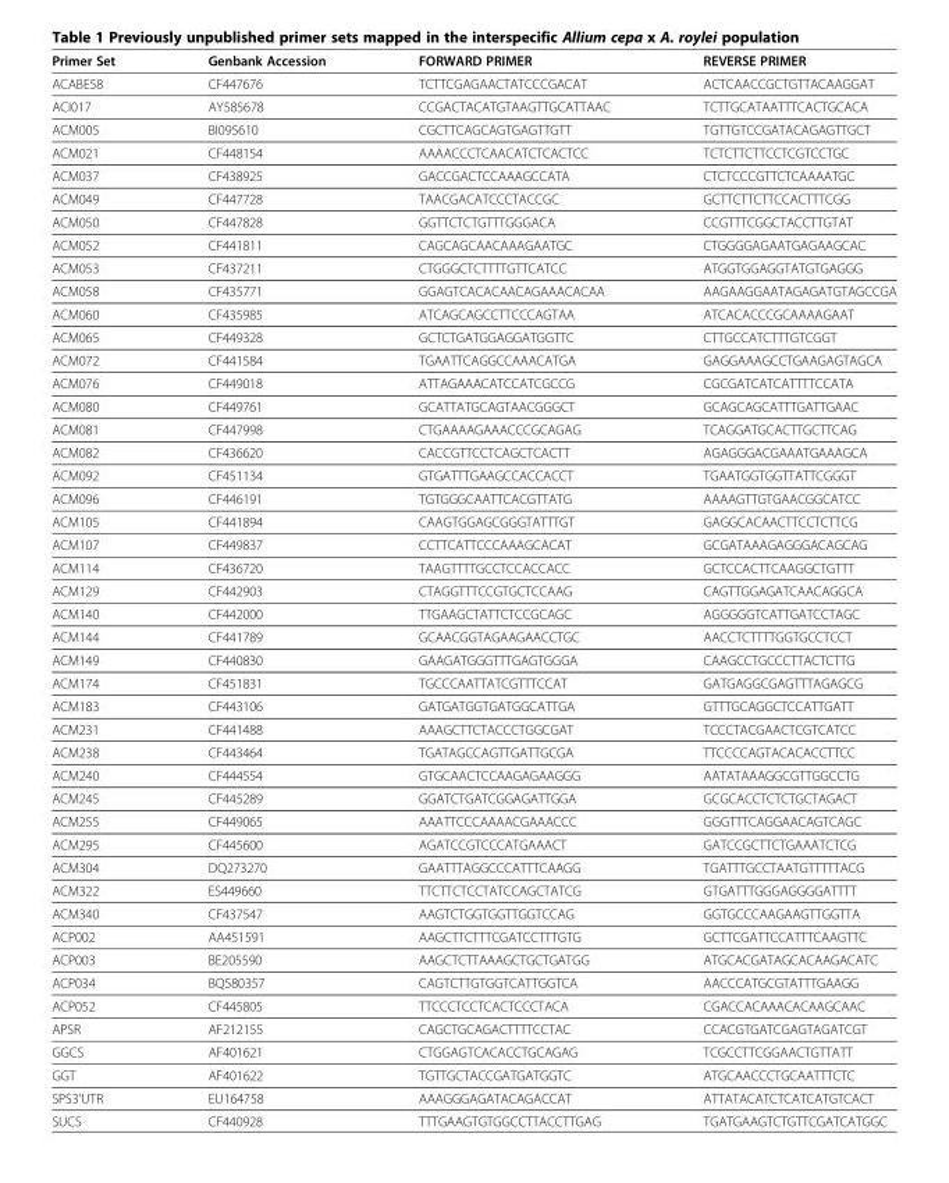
<table><thead><tr><td>Primer Set</td><td>Genbank Accession</td><td>FORWARD PRIMER</td><td>REVERSE PRIMER</td></tr></thead><tbody><tr><td>ACABE58</td><td>CF447676</td><td>TCTTCGAGAACTATCCCGACAT</td><td>ACTCAACCGCTGTTACAAGGAT</td></tr><tr><td>ACI017</td><td>AY585678</td><td>CCGACTACATGTAAGTTGCATTAAC</td><td>TCTTGCATAATTTCACTGCACA</td></tr><tr><td>ACM005</td><td>BI095610</td><td>CGCTTCAGCAGTGAGTTGTT</td><td>TGTTGTCCGATACAGAGTTGCT</td></tr><tr><td>ACM021</td><td>CF448154</td><td>AAAACCCTCAACATCTCACTCC</td><td>TCTCTTCTTCCTCGTCCTGC</td></tr><tr><td>ACM037</td><td>CF438925</td><td>GACCGACTCCAAAGCCATA</td><td>CTCTCCCGTTCTCAAAATGC</td></tr><tr><td>ACM049</td><td>CF447728</td><td>TAACGACATCCCTACCGC</td><td>GCTTCTTCTTCCACTTTCGG</td></tr><tr><td>ACM050</td><td>CF447828</td><td>GGTTCTCTGTTTGGGACA</td><td>CCGTTTCGGCTACCTTGTAT</td></tr><tr><td>ACM052</td><td>CF441811</td><td>CAGCAGCAACAAAGAATGC</td><td>CTGGGGAGAATGAGAAGCAC</td></tr><tr><td>ACM053</td><td>CF437211</td><td>CTGGGCTCTTTTGTTCATCC</td><td>ATGGTGGAGGTATGTGAGGG</td></tr><tr><td>ACM058</td><td>CF435771</td><td>GGAGTCACACAACAGAAACACAA</td><td>AAGAAGGAATAGAGATGTAGCCGA</td></tr><tr><td>ACM060</td><td>CF435985</td><td>ATCAGCAGCCTTCCCAGTAA</td><td>ATCACACCCGCAAAAGAAT</td></tr><tr><td>ACM065</td><td>CF449328</td><td>GCTCTGATGGAGGATGGTTC</td><td>CTTGCCATCTTTGTCGGT</td></tr><tr><td>ACM072</td><td>CF441584</td><td>TGAATTCAGGCCAAACATGA</td><td>GAGGAAAGCCTGAAGAGTAGCA</td></tr><tr><td>ACM076</td><td>CF449018</td><td>ATTAGAAACATCCATCGCCG</td><td>CGCGATCATCATTTTCCATA</td></tr><tr><td>ACM080</td><td>CF449761</td><td>GCATTATGCAGTAACGGGCT</td><td>GCAGCAGCATTTGATTGAAC</td></tr><tr><td>ACM081</td><td>CF447998</td><td>CTGAAAAGAAACCCGCAGAG</td><td>TCAGGATGCACTTGCTTCAG</td></tr><tr><td>ACM082</td><td>CF436620</td><td>CACCGTTCCTCAGCTCACTT</td><td>AGAGGGACGAAATGAAAGCA</td></tr><tr><td>ACM092</td><td>CF451134</td><td>GTGATTTGAAGCCACCACCT</td><td>TGAATGGTGGTTATTCGGGT</td></tr><tr><td>ACM096</td><td>CF446191</td><td>TGTGGGCAATTCACGTTATG</td><td>AAAAGTTGTGAACGGCATCC</td></tr><tr><td>ACM105</td><td>CF441894</td><td>CAAGTGGAGCGGGTATTTGT</td><td>GAGGCACAACTTCCTCTTCG</td></tr><tr><td>ACM107</td><td>CF449837</td><td>CCTTCATTCCCAAAGCACAT</td><td>GCGATAAAGAGGGACAGCAG</td></tr><tr><td>ACM114</td><td>CF436720</td><td>TAAGTTTTGCCTCCACCACC</td><td>GCTCCACTTCAAGGCTGTTT</td></tr><tr><td>ACM129</td><td>CF442903</td><td>CTAGGTTTCCGTGCTCCAAG</td><td>CAGTTGGAGATCAACAGGCA</td></tr><tr><td>ACM140</td><td>CF442000</td><td>TTGAAGCTATTCTCCGCAGC</td><td>AGGGGGTCATTGATCCTAGC</td></tr><tr><td>ACM144</td><td>CF441789</td><td>GCAACGGTAGAAGAACCTGC</td><td>AACCTCTTTTGGTGCCTCCT</td></tr><tr><td>ACM149</td><td>CF440830</td><td>GAAGATGGGTTTGAGTGGGA</td><td>CAAGCCTGCCCTTACTCTTG</td></tr><tr><td>ACM174</td><td>CF451831</td><td>TGCCCAATTATCGTTTCCAT</td><td>GATGAGGCGAGTTTAGAGCG</td></tr><tr><td>ACM183</td><td>CF443106</td><td>GATGATGGTGATGGCATTGA</td><td>GTTTGCAGGCTCCATTGATT</td></tr><tr><td>ACM231</td><td>CF441488</td><td>AAAGCTTCTACCCTGGCGAT</td><td>TCCCTACGAACTCGTCATCC</td></tr><tr><td>ACM238</td><td>CF443464</td><td>TGATAGCCAGTTGATTGCGA</td><td>TTCCCCAGTACACACCTTCC</td></tr><tr><td>ACM240</td><td>CF444554</td><td>GTGCAACTCCAAGAGAAGGG</td><td>AATATAAAGGCGTTGGCCTG</td></tr><tr><td>ACM245</td><td>CF445289</td><td>GGATCTGATCGGAGATTGGA</td><td>GCGCACCTCTCTGCTAGACT</td></tr><tr><td>ACM255</td><td>CF449065</td><td>AAATTCCCAAAACGAAACCC</td><td>GGGTTTCAGGAACAGTCAGC</td></tr><tr><td>ACM295</td><td>CF445600</td><td>AGATCCGTCCCATGAAACT</td><td>GATCCGCTTCTGAAATCTCG</td></tr><tr><td>ACM304</td><td>DQ273270</td><td>GAATTTAGGCCCATTTCAAGG</td><td>TGATTTGCCTAATGTTTTTACG</td></tr><tr><td>ACM322</td><td>ES449660</td><td>TTCTTCTCCTATCCAGCTATCG</td><td>GTGATTTGGGAGGGGATTTT</td></tr><tr><td>ACM340</td><td>CF437547</td><td>AAGTCTGGTGGTTGGTCCAG</td><td>GGTGCCCAAGAAGTTGGTTA</td></tr><tr><td>ACP002</td><td>AA451591</td><td>AAGCTTCTTTCGATCCTTTGTG</td><td>GCTTCGATTCCATTTCAAGTTC</td></tr><tr><td>ACP003</td><td>BE205590</td><td>AAGCTCTTAAAGCTGCTGATGG</td><td>ATGCACGATAGCACAAGACATC</td></tr><tr><td>ACP034</td><td>BQ580357</td><td>CAGTCTTGTGGTCATTGGTCA</td><td>AACCCATGCGTATTTGAAGG</td></tr><tr><td>ACP052</td><td>CF445805</td><td>TTCCCTCCTCACTCCCTACA</td><td>CGACCACAAACACAAGCAAC</td></tr><tr><td>APSR</td><td>AF212155</td><td>CAGCTGCAGACTTTTCCTAC</td><td>CCACGTGATCGAGTAGATCGT</td></tr><tr><td>GGCS</td><td>AF401621</td><td>CTGGAGTCACACCTGCAGAG</td><td>TCGCCTTCGGAACTGTTATT</td></tr><tr><td>GGT</td><td>AF401622</td><td>TGTTGCTACCGATGATGGTC</td><td>ATGCAACCCTGCAATTTCTC</td></tr><tr><td>SPS3&#x27;UTR</td><td>EU164758</td><td>AAAGGGAGATACAGACCAT</td><td>ATTATACATCTCATCATGTCACT</td></tr><tr><td>SUCS</td><td>CF440928</td><td>TTTGAAGTGTGGCCTTACCTTGAG</td><td>TGATGAAGTCTGTTCGATCATGGC</td></tr></tbody></table>